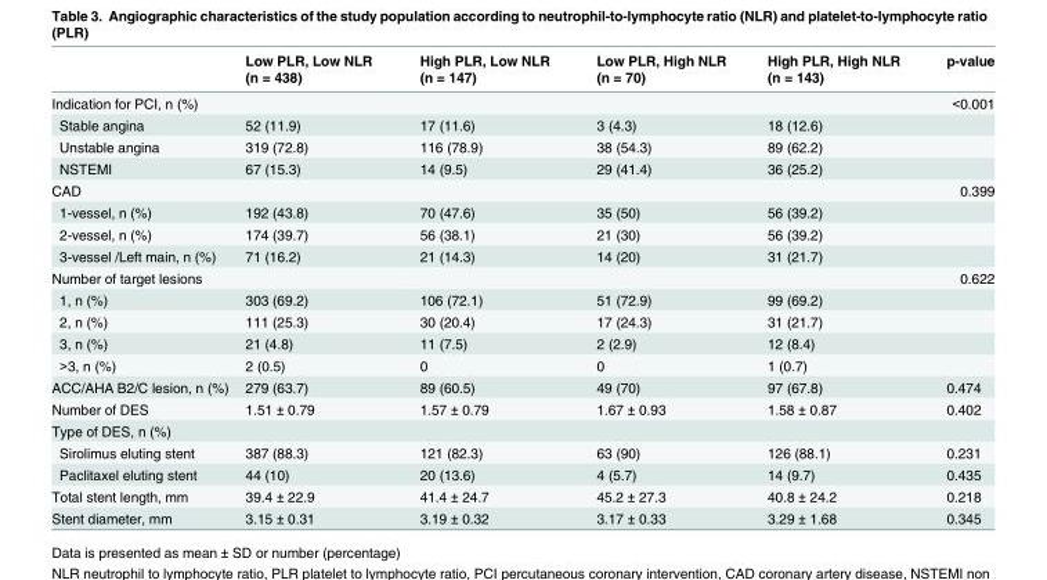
<table><thead><tr><td></td><td>Low PLR, Low NLR (n = 438)</td><td>High PLR, Low NLR (n = 147)</td><td>Low PLR, High NLR (n = 70)</td><td>High PLR, High NLR (n = 143)</td><td>p-value</td></tr></thead><tbody><tr><td>Indication for PCI, n (%)</td><td></td><td colspan="4">&lt;0.001</td></tr><tr><td>Stable angina</td><td>52 (11.9)</td><td>17 (11.6)</td><td>3 (4.3)</td><td>18 (12.6)</td><td></td></tr><tr><td>Unstable angina</td><td>319 (72.8)</td><td>116 (78.9)</td><td>38 (54.3)</td><td>89 (62.2)</td><td></td></tr><tr><td>NSTEMI</td><td>67 (15.3)</td><td>14 (9.5)</td><td>29 (41.4)</td><td>36 (25.2)</td><td></td></tr><tr><td>CAD</td><td></td><td colspan="4">0.399</td></tr><tr><td>1-vessel, n (%)</td><td>192 (43.8)</td><td>70 (47.6)</td><td>35 (50)</td><td>56 (39.2)</td><td></td></tr><tr><td>2-vessel, n (%)</td><td>174 (39.7)</td><td>56 (38.1)</td><td>21 (30)</td><td>56 (39.2)</td><td></td></tr><tr><td>3-vessel /Left main, n (%)</td><td>71 (16.2)</td><td>21 (14.3)</td><td>14 (20)</td><td>31 (21.7)</td><td></td></tr><tr><td>Number of target lesions</td><td></td><td colspan="4">0.622</td></tr><tr><td>1, n (%)</td><td>303 (69.2)</td><td>106 (72.1)</td><td>51 (72.9)</td><td>99 (69.2)</td><td></td></tr><tr><td>2, n (%)</td><td>111 (25.3)</td><td>30 (20.4)</td><td>17 (24.3)</td><td>31 (21.7)</td><td></td></tr><tr><td>3, n (%)</td><td>21 (4.8)</td><td>11 (7.5)</td><td>2 (2.9)</td><td>12 (8.4)</td><td></td></tr><tr><td>&gt;3, n (%)</td><td>2 (0.5)</td><td>0</td><td>0</td><td>1 (0.7)</td><td></td></tr><tr><td>ACC/AHA B2/C lesion, n (%)</td><td>279 (63.7)</td><td>89 (60.5)</td><td>49 (70)</td><td>97 (67.8)</td><td>0.474</td></tr><tr><td>Number of DES</td><td>1.51 ± 0.79</td><td>1.57 ± 0.79</td><td>1.67 ± 0.93</td><td>1.58 ± 0.87</td><td>0.402</td></tr><tr><td colspan="6">Type of DES, n (%)</td></tr><tr><td>Sirolimus eluting stent</td><td>387 (88.3)</td><td>121 (82.3)</td><td>63 (90)</td><td>126 (88.1)</td><td>0.231</td></tr><tr><td>Paclitaxel eluting stent</td><td>44 (10)</td><td>20 (13.6)</td><td>4 (5.7)</td><td>14 (9.7)</td><td>0.435</td></tr><tr><td>Total stent length, mm</td><td>39.4 ± 22.9</td><td>41.4 ± 24.7</td><td>45.2 ± 27.3</td><td>40.8 ± 24.2</td><td>0.218</td></tr><tr><td>Stent diameter, mm</td><td>3.15 ± 0.31</td><td>3.19 ± 0.32</td><td>3.17 ± 0.33</td><td>3.29 ± 1.68</td><td>0.345</td></tr></tbody></table>